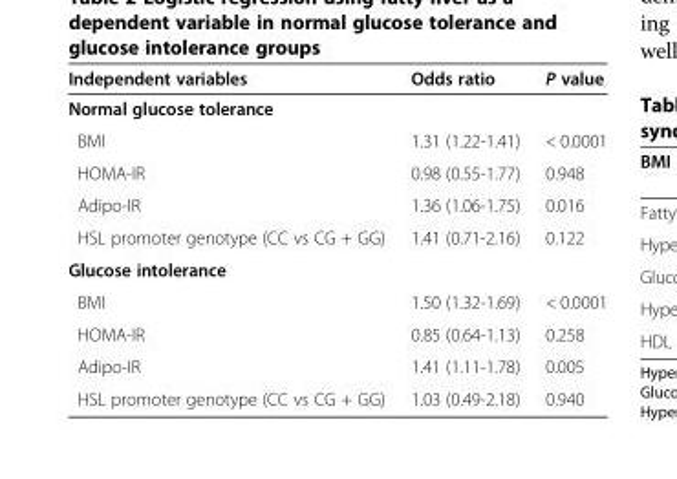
<table><thead><tr><td>Independent variables</td><td>Odds ratio</td><td>P value</td></tr></thead><tbody><tr><td colspan="3">Normal glucose tolerance</td></tr><tr><td>BMI</td><td>1.31 (1.22-1.41)</td><td>&lt; 0.0001</td></tr><tr><td>HOMA-IR</td><td>0.98 (0.55-1.77)</td><td>0.948</td></tr><tr><td>Adipo-IR</td><td>1.36 (1.06-1.75)</td><td>0.016</td></tr><tr><td>HSL promoter genotype (CC vs CG + GG)</td><td>1.41 (0.71-2.16)</td><td>0.122</td></tr><tr><td colspan="3">Glucose intolerance</td></tr><tr><td>BMI</td><td>1.50 (1.32-1.69)</td><td>&lt; 0.0001</td></tr><tr><td>HOMA-IR</td><td>0.85 (0.64-1.13)</td><td>0.258</td></tr><tr><td>Adipo-IR</td><td>1.41 (1.11-1.78)</td><td>0.005</td></tr><tr><td>HSL promoter genotype (CC vs CG + GG)</td><td>1.03 (0.49-2.18)</td><td>0.940</td></tr></tbody></table>